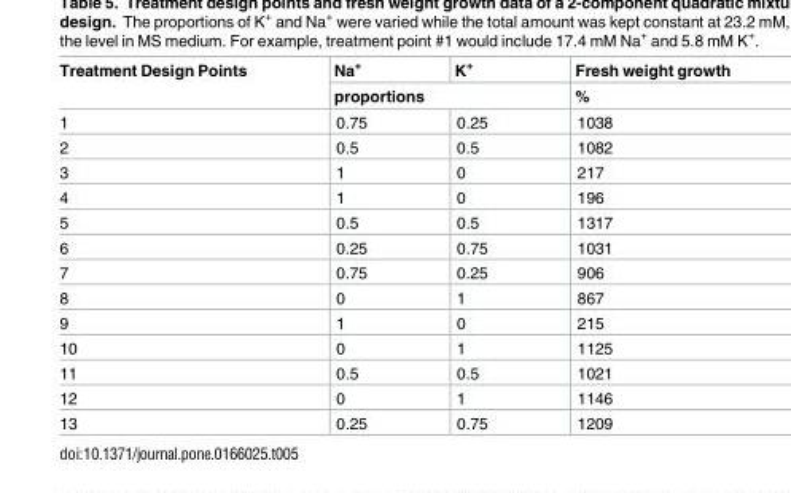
<table><thead><tr><td rowspan="2">Treatment Design Points</td><td>Na<sup>+</sup></td><td>K<sup>+</sup></td><td rowspan="2">Fresh weight growth %</td></tr><tr><td colspan="2">proportions</td></tr></thead><tbody><tr><td>1</td><td>0.75</td><td>0.25</td><td>1038</td></tr><tr><td>2</td><td>0.5</td><td>0.5</td><td>1082</td></tr><tr><td>3</td><td>1</td><td>0</td><td>217</td></tr><tr><td>4</td><td>1</td><td>0</td><td>196</td></tr><tr><td>5</td><td>0.5</td><td>0.5</td><td>1317</td></tr><tr><td>6</td><td>0.25</td><td>0.75</td><td>1031</td></tr><tr><td>7</td><td>0.75</td><td>0.25</td><td>906</td></tr><tr><td>8</td><td>0</td><td>1</td><td>867</td></tr><tr><td>9</td><td>1</td><td>0</td><td>215</td></tr><tr><td>10</td><td>0</td><td>1</td><td>1125</td></tr><tr><td>11</td><td>0.5</td><td>0.5</td><td>1021</td></tr><tr><td>12</td><td>0</td><td>1</td><td>1146</td></tr><tr><td>13</td><td>0.25</td><td>0.75</td><td>1209</td></tr></tbody></table>